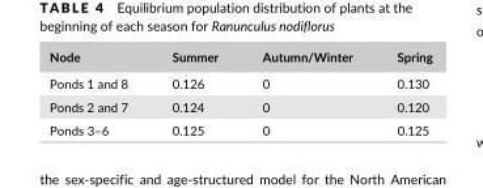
<table><thead><tr><td>Node</td><td>Summer</td><td>Autumn/Winter</td><td>Spring</td></tr></thead><tbody><tr><td>Ponds 1 and 8</td><td>0.126</td><td>0</td><td>0.130</td></tr><tr><td>Ponds 2 and 7</td><td>0.124</td><td>0</td><td>0.120</td></tr><tr><td>Ponds 3–6</td><td>0.125</td><td>0</td><td>0.125</td></tr></tbody></table>